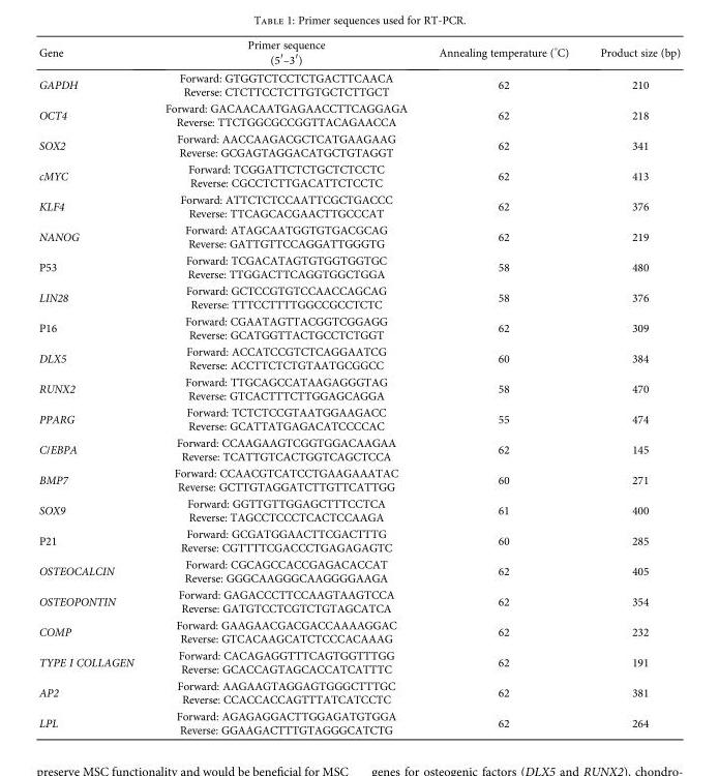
<table><thead><tr><td>Gene</td><td>Primer sequence (5′–3′)</td><td>Annealing temperature (°C)</td><td>Product size (bp)</td></tr></thead><tbody><tr><td>GAPDH</td><td>Forward: GTGGTCTCCTCTGACTTCAACA Reverse: CTCTTCCTCTTGTGCTCTTGCT</td><td>62</td><td>210</td></tr><tr><td>OCT4</td><td>Forward: GACAACAATGAGAACCTTCAGGAGA Reverse: TTCTGGCGCCGGTTACAGAACCA</td><td>62</td><td>218</td></tr><tr><td>SOX2</td><td>Forward: AACCAAGACGCTCATGAAGAAG Reverse: GCGAGTAGGACATGCTGTAGGT</td><td>62</td><td>341</td></tr><tr><td>cMYC</td><td>Forward: TCGGATTCTCTGCTCTCCTC Reverse: CGCCTCTTGACATTCTCCTC</td><td>62</td><td>413</td></tr><tr><td>KLF4</td><td>Forward: ATTCTCTCCAATTCGCTGACCC Reverse: TTCAGCACGAACTTGCCCAT</td><td>62</td><td>376</td></tr><tr><td>NANOG</td><td>Forward: ATAGCAATGGTGTGACGCAG Reverse: GATTGTTCCAGGATTGGGTG</td><td>62</td><td>219</td></tr><tr><td>P53</td><td>Forward: TCGACATAGTGTGGTGGTGC Reverse: TTGGACTTCAGGTGGCTGGA</td><td>58</td><td>480</td></tr><tr><td>LIN28</td><td>Forward: GCTCCGTGTCCAACCAGCAG Reverse: TTTCCTTTTGGCCGCCTCTC</td><td>58</td><td>376</td></tr><tr><td>P16</td><td>Forward: CGAATAGTTACGGTCGGAGG Reverse: GCATGGTTACTGCCTCTGGT</td><td>62</td><td>309</td></tr><tr><td>DLX5</td><td>Forward: ACCATCCGTCTCAGGAATCG Reverse: ACCTTCTCTGTAATGCGGCC</td><td>60</td><td>384</td></tr><tr><td>RUNX2</td><td>Forward: TTGCAGCCATAAGAGGGTAG Reverse: GTCACTTTCTTGGAGCAGGA</td><td>58</td><td>470</td></tr><tr><td>PPARG</td><td>Forward: TCTCTCCGTAATGGAAGACC Reverse: GCATTATGAGACATCCCCAC</td><td>55</td><td>474</td></tr><tr><td>C/EBPA</td><td>Forward: CCAAGAAGTCGGTGGACAAGAA Reverse: TCATTGTCACTGGTCAGCTCCA</td><td>62</td><td>145</td></tr><tr><td>BMP7</td><td>Forward: CCAACGTCATCCTGAAGAAATAC Reverse: GCTTGTAGGATCTTGTTCATTGG</td><td>60</td><td>271</td></tr><tr><td>SOX9</td><td>Forward: GGTTGTTGGAGCTTTCCTCA Reverse: TAGCCTCCCTCACTCCAAGA</td><td>61</td><td>400</td></tr><tr><td>P21</td><td>Forward: GCGATGGAACTTCGACTTTG Reverse: CGTTTTCGACCCTGAGAGAGTC</td><td>60</td><td>285</td></tr><tr><td>OSTEOCALCIN</td><td>Forward: CGCAGCCACCGAGACACCAT Reverse: GGGCAAGGGCAAGGGGAAGA</td><td>62</td><td>405</td></tr><tr><td>OSTEOPONTIN</td><td>Forward: GAGACCCTTCCAAGTAAGTCCA Reverse: GATGTCCTCGTCTGTAGCATCA</td><td>62</td><td>354</td></tr><tr><td>COMP</td><td>Forward: GAAGAACGACGACCAAAAGGAC Reverse: GTCACAAGCATCTCCCACAAAG</td><td>62</td><td>232</td></tr><tr><td>TYPE I COLLAGEN</td><td>Forward: CACAGAGGTTTCAGTGGTTTGG Reverse: GCACCAGTAGCACCATCATTTC</td><td>62</td><td>191</td></tr><tr><td>AP2</td><td>Forward: AAGAAGTAGGAGTGGGCTTTGC Reverse: CCACCACCAGTTTATCATCCTC</td><td>62</td><td>381</td></tr><tr><td>LPL</td><td>Forward: AGAGAGGACTTGGAGATGTGGA Reverse: GGAAGACTTTGTAGGGCATCTG</td><td>62</td><td>264</td></tr></tbody></table>